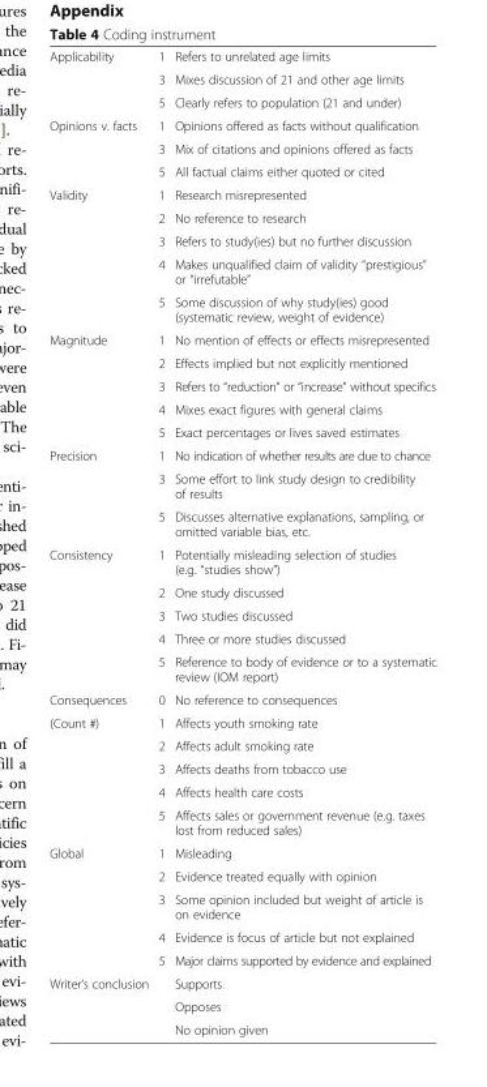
<table><tbody><tr><td rowspan="3">Applicability</td><td>1</td><td>Refers to unrelated age limits</td></tr><tr><td>3</td><td>Mixes discussion of 21 and other age limits</td></tr><tr><td>5</td><td>Clearly refers to population (21 and under)</td></tr><tr><td rowspan="3">Opinions v. facts</td><td>1</td><td>Opinions offered as facts without qualification</td></tr><tr><td>3</td><td>Mix of citations and opinions offered as facts</td></tr><tr><td>5</td><td>All factual claims either quoted or cited</td></tr><tr><td rowspan="5">Validity</td><td>1</td><td>Research misrepresented</td></tr><tr><td>2</td><td>No reference to research</td></tr><tr><td>3</td><td>Refers to study(ies) but no further discussion</td></tr><tr><td>4</td><td>Makes unqualified claim of validity “prestigious” or “irrefutable”</td></tr><tr><td>5</td><td>Some discussion of why study(ies) good (systematic review, weight of evidence)</td></tr><tr><td rowspan="5">Magnitude</td><td>1</td><td>No mention of effects or effects misrepresented</td></tr><tr><td>2</td><td>Effects implied but not explicitly mentioned</td></tr><tr><td>3</td><td>Refers to “reduction” or “increase” without specifics</td></tr><tr><td>4</td><td>Mixes exact figures with general claims</td></tr><tr><td>5</td><td>Exact percentages or lives saved estimates</td></tr><tr><td rowspan="3">Precision</td><td>1</td><td>No indication of whether results are due to chance</td></tr><tr><td>3</td><td>Some effort to link study design to credibility of results</td></tr><tr><td>5</td><td>Discusses alternative explanations, sampling, or omitted variable bias, etc.</td></tr><tr><td rowspan="5">Consistency</td><td>1</td><td>Potentially misleading selection of studies (e.g. “studies show”)</td></tr><tr><td>2</td><td>One study discussed</td></tr><tr><td>3</td><td>Two studies discussed</td></tr><tr><td>4</td><td>Three or more studies discussed</td></tr><tr><td>5</td><td>Reference to body of evidence or to a systematic review (IOM report)</td></tr><tr><td>Consequences</td><td>0</td><td>No reference to consequences</td></tr><tr><td rowspan="5">(Count #)</td><td>1</td><td>Affects youth smoking rate</td></tr><tr><td>2</td><td>Affects adult smoking rate</td></tr><tr><td>3</td><td>Affects deaths from tobacco use</td></tr><tr><td>4</td><td>Affects health care costs</td></tr><tr><td>5</td><td>Affects sales or government revenue (e.g. taxes lost from reduced sales)</td></tr><tr><td rowspan="5">Global</td><td>1</td><td>Misleading</td></tr><tr><td>2</td><td>Evidence treated equally with opinion</td></tr><tr><td>3</td><td>Some opinion included but weight of article is on evidence</td></tr><tr><td>4</td><td>Evidence is focus of article but not explained</td></tr><tr><td>5</td><td>Major claims supported by evidence and explained</td></tr><tr><td rowspan="3">Writer’s conclusion</td><td></td><td>Supports</td></tr><tr><td></td><td>Opposes</td></tr><tr><td></td><td>No opinion given</td></tr></tbody></table>